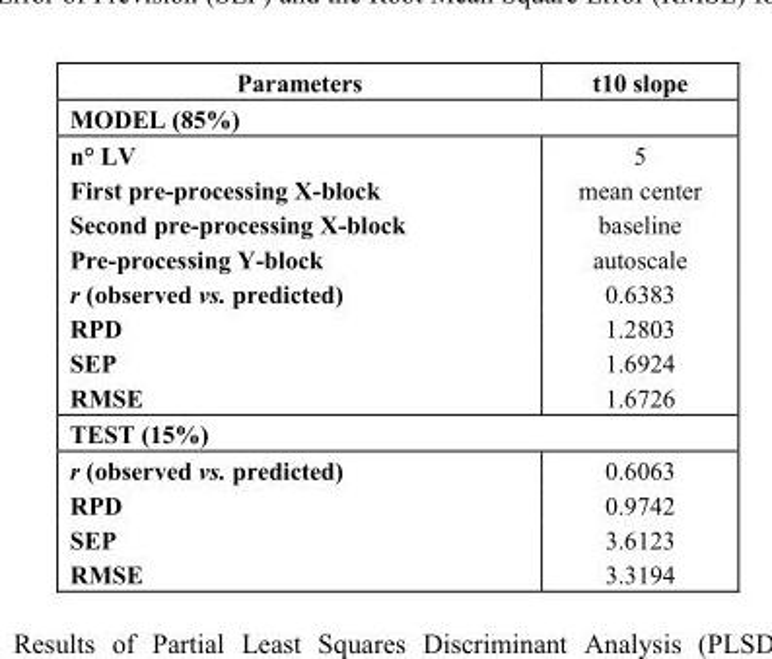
<table><thead><tr><td>Parameters</td><td>t10 slope</td></tr></thead><tbody><tr><td colspan="2">MODEL (85%)</td></tr><tr><td>n° LV</td><td>5</td></tr><tr><td>First pre-processing X-block</td><td>mean center</td></tr><tr><td>Second pre-processing X-block</td><td>baseline</td></tr><tr><td>Pre-processing Y-block</td><td>autoscale</td></tr><tr><td>r (observed vs. predicted)</td><td>0.6383</td></tr><tr><td>RPD</td><td>1.2803</td></tr><tr><td>SEP</td><td>1.6924</td></tr><tr><td>RMSE</td><td>1.6726</td></tr><tr><td colspan="2">TEST (15%)</td></tr><tr><td>r (observed vs. predicted)</td><td>0.6063</td></tr><tr><td>RPD</td><td>0.9742</td></tr><tr><td>SEP</td><td>3.6123</td></tr><tr><td>RMSE</td><td>3.3194</td></tr></tbody></table>